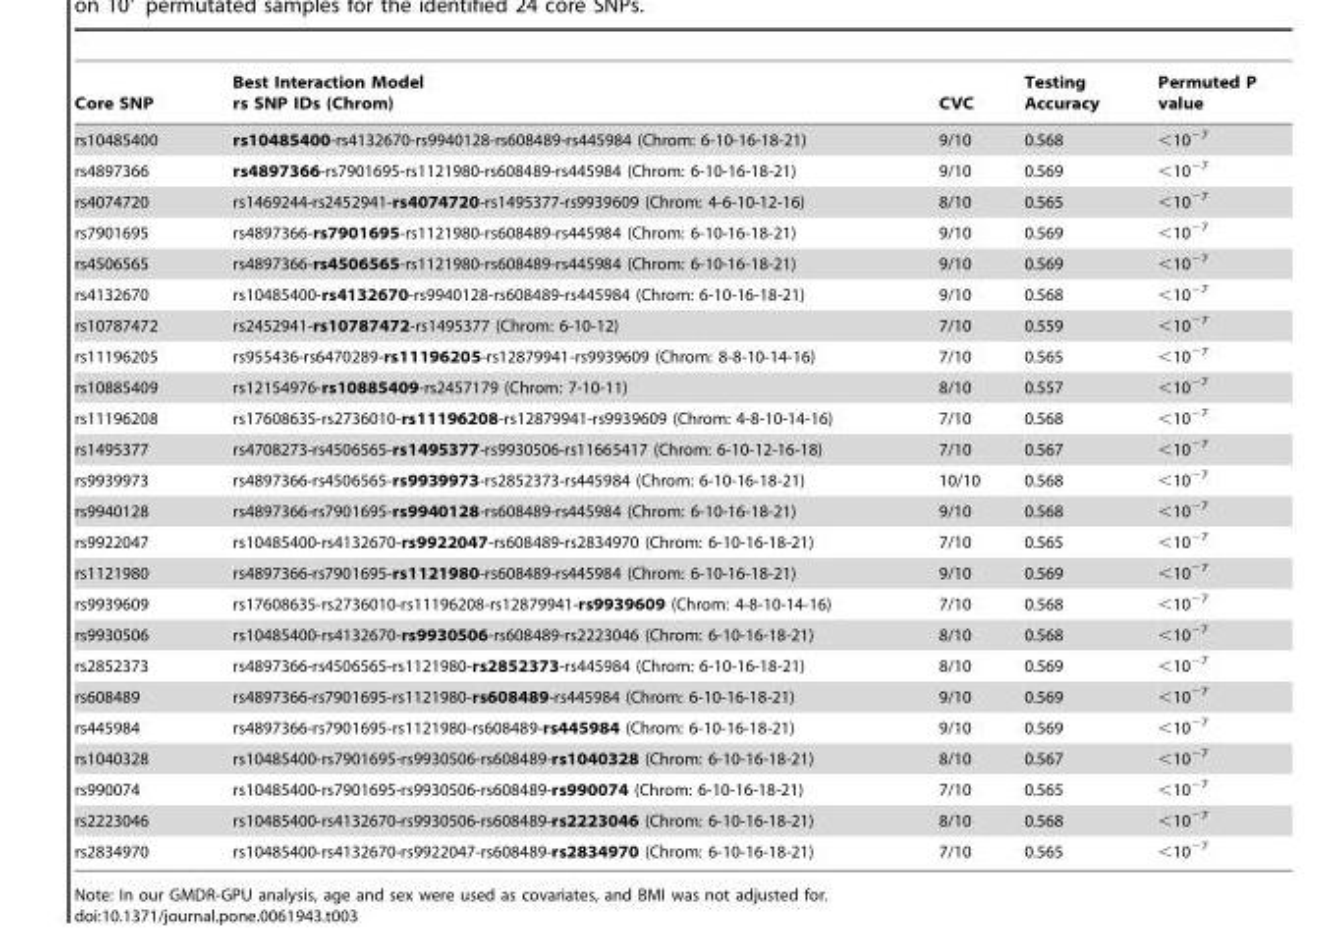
<table><thead><tr><td>Core SNP</td><td>Best Interaction Model rs SNP IDs (Chrom)</td><td>CVC</td><td>Testing Accuracy</td><td>Permuted P value</td></tr></thead><tbody><tr><td>rs10485400</td><td>rs10485400-rs4132670-rs9940128-rs608489-rs445984 (Chrom: 6-10-16-18-21)</td><td>9/10</td><td>0.568</td><td>&lt;10<sup>−7</sup></td></tr><tr><td>rs4897366</td><td>rs4897366-rs7901695-rs1121980-rs608489-rs445984 (Chrom: 6-10-16-18-21)</td><td>9/10</td><td>0.569</td><td>&lt;10<sup>−7</sup></td></tr><tr><td>rs4074720</td><td>rs1469244-rs2452941-rs4074720-rs1495377-rs9939609 (Chrom: 4-6-10-12-16)</td><td>8/10</td><td>0.565</td><td>&lt;10<sup>−7</sup></td></tr><tr><td>rs7901695</td><td>rs4897366-rs7901695-rs1121980-rs608489-rs445984 (Chrom: 6-10-16-18-21)</td><td>9/10</td><td>0.569</td><td>&lt;10<sup>−7</sup></td></tr><tr><td>rs4506565</td><td>rs4897366-rs4506565-rs1121980-rs608489-rs445984 (Chrom: 6-10-16-18-21)</td><td>9/10</td><td>0.569</td><td>&lt;10<sup>−7</sup></td></tr><tr><td>rs4132670</td><td>rs10485400-rs4132670-rs9940128-rs608489-rs445984 (Chrom: 6-10-16-18-21)</td><td>9/10</td><td>0.568</td><td>&lt;10<sup>−7</sup></td></tr><tr><td>rs10787472</td><td>rs2452941-rs10787472-rs1495377 (Chrom: 6-10-12)</td><td>7/10</td><td>0.559</td><td>&lt;10<sup>−7</sup></td></tr><tr><td>rs11196205</td><td>rs955436-rs6470289-rs11196205-rs12879941-rs9939609 (Chrom: 8-8-10-14-16)</td><td>7/10</td><td>0.565</td><td>&lt;10<sup>−7</sup></td></tr><tr><td>rs10885409</td><td>rs12154976-rs10885409-rs2457179 (Chrom: 7-10-11)</td><td>8/10</td><td>0.557</td><td>&lt;10<sup>−7</sup></td></tr><tr><td>rs11196208</td><td>rs17608635-rs2736010-rs11196208-rs12879941-rs9939609 (Chrom: 4-8-10-14-16)</td><td>7/10</td><td>0.568</td><td>&lt;10<sup>−7</sup></td></tr><tr><td>rs1495377</td><td>rs4708273-rs4506565-rs1495377-rs9930506-rs11665417 (Chrom: 6-10-12-16-18)</td><td>7/10</td><td>0.567</td><td>&lt;10<sup>−7</sup></td></tr><tr><td>rs9939973</td><td>rs4897366-rs4506565-rs9939973-rs2852373-rs445984 (Chrom: 6-10-16-18-21)</td><td>10/10</td><td>0.568</td><td>&lt;10<sup>−7</sup></td></tr><tr><td>rs9940128</td><td>rs4897366-rs7901695-rs9940128-rs608489-rs445984 (Chrom: 6-10-16-18-21)</td><td>9/10</td><td>0.568</td><td>&lt;10<sup>−7</sup></td></tr><tr><td>rs9922047</td><td>rs10485400-rs4132670-rs9922047-rs608489-rs2834970 (Chrom: 6-10-16-18-21)</td><td>7/10</td><td>0.565</td><td>&lt;10<sup>−7</sup></td></tr><tr><td>rs1121980</td><td>rs4897366-rs7901695-rs1121980-rs608489-rs445984 (Chrom: 6-10-16-18-21)</td><td>9/10</td><td>0.569</td><td>&lt;10<sup>−7</sup></td></tr><tr><td>rs9939609</td><td>rs17608635-rs2736010-rs11196208-rs12879941-rs9939609 (Chrom: 4-8-10-14-16)</td><td>7/10</td><td>0.568</td><td>&lt;10<sup>−7</sup></td></tr><tr><td>rs9930506</td><td>rs10485400-rs4132670-rs9930506-rs608489-rs2223046 (Chrom: 6-10-16-18-21)</td><td>8/10</td><td>0.568</td><td>&lt;10<sup>−7</sup></td></tr><tr><td>rs2852373</td><td>rs4897366-rs4506565-rs1121980-rs2852373-rs445984 (Chrom: 6-10-16-18-21)</td><td>8/10</td><td>0.569</td><td>&lt;10<sup>−7</sup></td></tr><tr><td>rs608489</td><td>rs4897366-rs7901695-rs1121980-rs608489-rs445984 (Chrom: 6-10-16-18-21)</td><td>9/10</td><td>0.569</td><td>&lt;10<sup>−7</sup></td></tr><tr><td>rs445984</td><td>rs4897366-rs7901695-rs1121980-rs608489-rs445984 (Chrom: 6-10-16-18-21)</td><td>9/10</td><td>0.569</td><td>&lt;10<sup>−7</sup></td></tr><tr><td>rs1040328</td><td>rs10485400-rs7901695-rs9930506-rs608489-rs1040328 (Chrom: 6-10-16-18-21)</td><td>8/10</td><td>0.567</td><td>&lt;10<sup>−7</sup></td></tr><tr><td>rs990074</td><td>rs10485400-rs7901695-rs9930506-rs608489-rs990074 (Chrom: 6-10-16-18-21)</td><td>7/10</td><td>0.565</td><td>&lt;10<sup>−7</sup></td></tr><tr><td>rs2223046</td><td>rs10485400-rs4132670-rs9930506-rs608489-rs2223046 (Chrom: 6-10-16-18-21)</td><td>8/10</td><td>0.568</td><td>&lt;10<sup>−7</sup></td></tr><tr><td>rs2834970</td><td>rs10485400-rs4132670-rs9922047-rs608489-rs2834970 (Chrom: 6-10-16-18-21)</td><td>7/10</td><td>0.565</td><td>&lt;10<sup>−7</sup></td></tr></tbody></table>